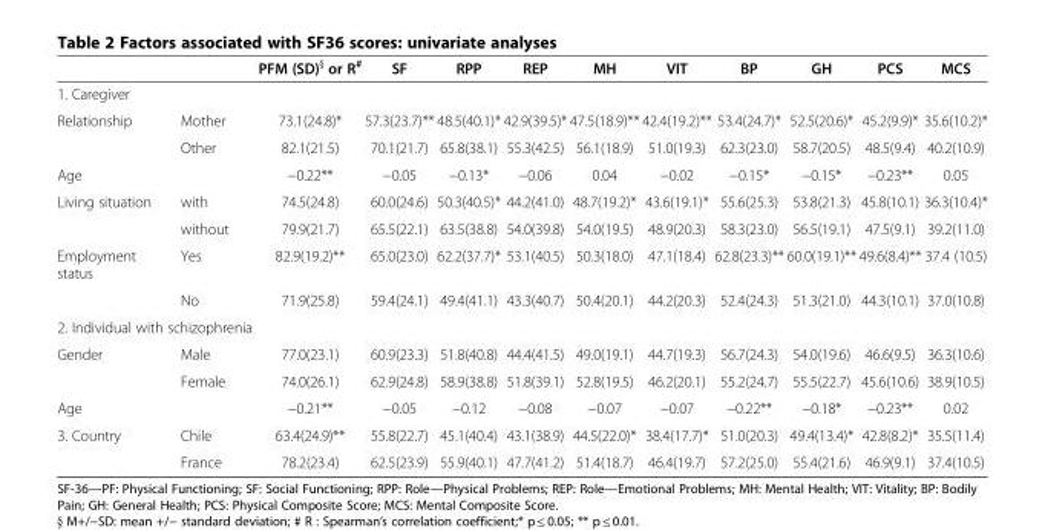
<table><thead><tr><td></td><td></td><td>PFM (SD)<sup>§</sup> or R<sup>#</sup></td><td>SF</td><td>RPP</td><td>REP</td><td>MH</td><td>VIT</td><td>BP</td><td>GH</td><td>PCS</td><td>MCS</td></tr></thead><tbody><tr><td colspan="12">1. Caregiver</td></tr><tr><td rowspan="2">Relationship</td><td>Mother</td><td>73.1(24.8)*</td><td>57.3(23.7)**</td><td>48.5(40.1)*</td><td>42.9(39.5)*</td><td>47.5(18.9)**</td><td>42.4(19.2)**</td><td>53.4(24.7)*</td><td>52.5(20.6)*</td><td>45.2(9.9)*</td><td>35.6(10.2)*</td></tr><tr><td>Other</td><td>82.1(21.5)</td><td>70.1(21.7)</td><td>65.8(38.1)</td><td>55.3(42.5)</td><td>56.1(18.9)</td><td>51.0(19.3)</td><td>62.3(23.0)</td><td>58.7(20.5)</td><td>48.5(9.4)</td><td>40.2(10.9)</td></tr><tr><td colspan="2">Age</td><td>−0.22**</td><td>−0.05</td><td>−0.13*</td><td>−0.06</td><td>0.04</td><td>−0.02</td><td>−0.15*</td><td>−0.15*</td><td>−0.23**</td><td>0.05</td></tr><tr><td rowspan="2">Living situation</td><td>with</td><td>74.5(24.8)</td><td>60.0(24.6)</td><td>50.3(40.5)*</td><td>44.2(41.0)</td><td>48.7(19.2)*</td><td>43.6(19.1)*</td><td>55.6(25.3)</td><td>53.8(21.3)</td><td>45.8(10.1)</td><td>36.3(10.4)*</td></tr><tr><td>without</td><td>79.9(21.7)</td><td>65.5(22.1)</td><td>63.5(38.8)</td><td>54.0(39.8)</td><td>54.0(19.5)</td><td>48.9(20.3)</td><td>58.3(23.0)</td><td>56.5(19.1)</td><td>47.5(9.1)</td><td>39.2(11.0)</td></tr><tr><td rowspan="2">Employment status</td><td>Yes</td><td>82.9(19.2)**</td><td>65.0(23.0)</td><td>62.2(37.7)*</td><td>53.1(40.5)</td><td>50.3(18.0)</td><td>47.1(18.4)</td><td>62.8(23.3)**</td><td>60.0(19.1)**</td><td>49.6(8.4)**</td><td>37.4 (10.5)</td></tr><tr><td>No</td><td>71.9(25.8)</td><td>59.4(24.1)</td><td>49.4(41.1)</td><td>43.3(40.7)</td><td>50.4(20.1)</td><td>44.2(20.3)</td><td>52.4(24.3)</td><td>51.3(21.0)</td><td>44.3(10.1)</td><td>37.0(10.8)</td></tr><tr><td colspan="12">2. Individual with schizophrenia</td></tr><tr><td rowspan="2">Gender</td><td>Male</td><td>77.0(23.1)</td><td>60.9(23.3)</td><td>51.8(40.8)</td><td>44.4(41.5)</td><td>49.0(19.1)</td><td>44.7(19.3)</td><td>56.7(24.3)</td><td>54.0(19.6)</td><td>46.6(9.5)</td><td>36.3(10.6)</td></tr><tr><td>Female</td><td>74.0(26.1)</td><td>62.9(24.8)</td><td>58.9(38.8)</td><td>51.8(39.1)</td><td>52.8(19.5)</td><td>46.2(20.1)</td><td>55.2(24.7)</td><td>55.5(22.7)</td><td>45.6(10.6)</td><td>38.9(10.5)</td></tr><tr><td colspan="2">Age</td><td>−0.21**</td><td>−0.05</td><td>−0.12</td><td>−0.08</td><td>−0.07</td><td>−0.07</td><td>−0.22**</td><td>−0.18*</td><td>−0.23**</td><td>0.02</td></tr><tr><td rowspan="2">3. Country</td><td>Chile</td><td>63.4(24.9)**</td><td>55.8(22.7)</td><td>45.1(40.4)</td><td>43.1(38.9)</td><td>44.5(22.0)*</td><td>38.4(17.7)*</td><td>51.0(20.3)</td><td>49.4(13.4)*</td><td>42.8(8.2)*</td><td>35.5(11.4)</td></tr><tr><td>France</td><td>78.2(23.4)</td><td>62.5(23.9)</td><td>55.9(40.1)</td><td>47.7(41.2)</td><td>51.4(18.7)</td><td>46.4(19.7)</td><td>57.2(25.0)</td><td>55.4(21.6)</td><td>46.9(9.1)</td><td>37.4(10.5)</td></tr></tbody></table>